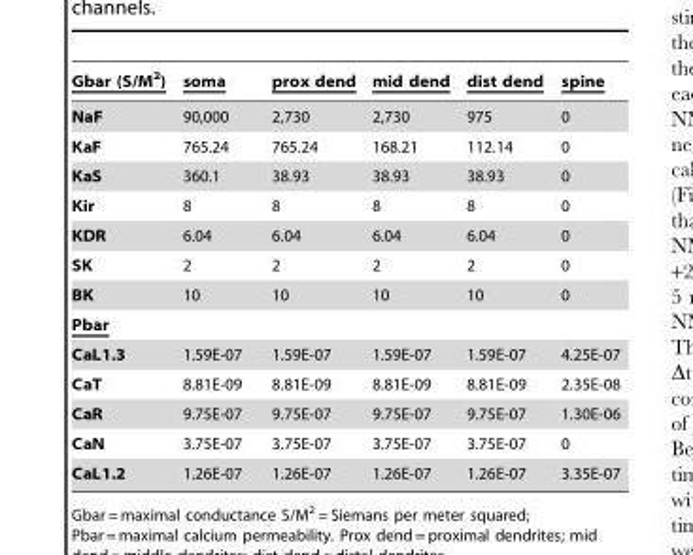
<table><thead><tr><td>Gbar (S/M<sup>2</sup>)</td><td>soma</td><td>prox dend</td><td>mid dend</td><td>dist dend</td><td>spine</td></tr></thead><tbody><tr><td>NaF</td><td>90,000</td><td>2,730</td><td>2,730</td><td>975</td><td>0</td></tr><tr><td>KaF</td><td>765.24</td><td>765.24</td><td>168.21</td><td>112.14</td><td>0</td></tr><tr><td>KaS</td><td>360.1</td><td>38.93</td><td>38.93</td><td>38.93</td><td>0</td></tr><tr><td>Kir</td><td>8</td><td>8</td><td>8</td><td>8</td><td>0</td></tr><tr><td>KDR</td><td>6.04</td><td>6.04</td><td>6.04</td><td>6.04</td><td>0</td></tr><tr><td>SK</td><td>2</td><td>2</td><td>2</td><td>2</td><td>0</td></tr><tr><td>BK</td><td>10</td><td>10</td><td>10</td><td>10</td><td>0</td></tr><tr><td colspan="6">Pbar</td></tr><tr><td>CaL1.3</td><td>1.59E-07</td><td>1.59E-07</td><td>1.59E-07</td><td>1.59E-07</td><td>4.25E-07</td></tr><tr><td>CaT</td><td>8.81E-09</td><td>8.81E-09</td><td>8.81E-09</td><td>8.81E-09</td><td>2.35E-08</td></tr><tr><td>CaR</td><td>9.75E-07</td><td>9.75E-07</td><td>9.75E-07</td><td>9.75E-07</td><td>1.30E-06</td></tr><tr><td>CaN</td><td>3.75E-07</td><td>3.75E-07</td><td>3.75E-07</td><td>3.75E-07</td><td>0</td></tr><tr><td>CaL1.2</td><td>1.26E-07</td><td>1.26E-07</td><td>1.26E-07</td><td>1.26E-07</td><td>3.35E-07</td></tr></tbody></table>